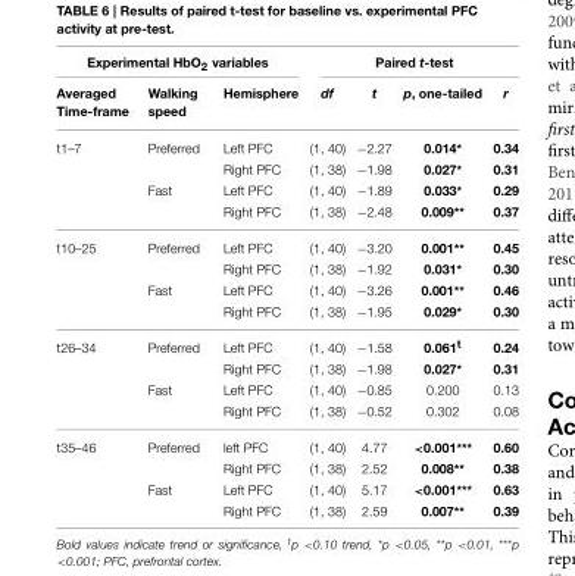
<table><thead><tr><td colspan="3">Experimental HbO<sub>2</sub> variables</td><td colspan="4">Paired t-test</td></tr><tr><td>Averaged Time-frame</td><td>Walking speed</td><td>Hemisphere</td><td>df</td><td>t</td><td>p, one-tailed</td><td>r</td></tr></thead><tbody><tr><td rowspan="4">t1–7</td><td>Preferred</td><td>Left PFC</td><td>(1, 40)</td><td>−2.27</td><td>0.014*</td><td>0.34</td></tr><tr><td></td><td>Right PFC</td><td>(1, 38)</td><td>−1.98</td><td>0.027*</td><td>0.31</td></tr><tr><td>Fast</td><td>Left PFC</td><td>(1, 40)</td><td>−1.89</td><td>0.033*</td><td>0.29</td></tr><tr><td></td><td>Right PFC</td><td>(1, 38)</td><td>−2.48</td><td>0.009**</td><td>0.37</td></tr><tr><td rowspan="4">t10–25</td><td>Preferred</td><td>Left PFC</td><td>(1, 40)</td><td>−3.20</td><td>0.001**</td><td>0.45</td></tr><tr><td></td><td>Right PFC</td><td>(1, 38)</td><td>−1.92</td><td>0.031*</td><td>0.30</td></tr><tr><td>Fast</td><td>Left PFC</td><td>(1, 40)</td><td>−3.26</td><td>0.001**</td><td>0.46</td></tr><tr><td></td><td>Right PFC</td><td>(1, 38)</td><td>−1.95</td><td>0.029*</td><td>0.30</td></tr><tr><td rowspan="4">t26–34</td><td>Preferred</td><td>Left PFC</td><td>(1, 40)</td><td>−1.58</td><td>0.061<sup>t</sup></td><td>0.24</td></tr><tr><td></td><td>Right PFC</td><td>(1, 38)</td><td>−1.98</td><td>0.027*</td><td>0.31</td></tr><tr><td>Fast</td><td>Left PFC</td><td>(1, 40)</td><td>−0.85</td><td>0.200</td><td>0.13</td></tr><tr><td></td><td>Right PFC</td><td>(1, 38)</td><td>−0.52</td><td>0.302</td><td>0.08</td></tr><tr><td rowspan="4">t35–46</td><td>Preferred</td><td>left PFC</td><td>(1, 40)</td><td>4.77</td><td>&lt;0.001***</td><td>0.60</td></tr><tr><td></td><td>Right PFC</td><td>(1, 38)</td><td>2.52</td><td>0.008**</td><td>0.38</td></tr><tr><td>Fast</td><td>Left PFC</td><td>(1, 40)</td><td>5.17</td><td>&lt;0.001***</td><td>0.63</td></tr><tr><td></td><td>Right PFC</td><td>(1, 38)</td><td>2.59</td><td>0.007**</td><td>0.39</td></tr></tbody></table>